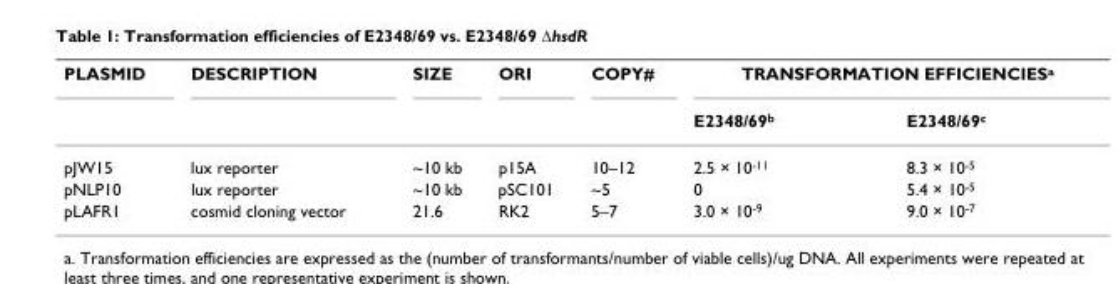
<table><thead><tr><td rowspan="2">PLASMID</td><td rowspan="2">DESCRIPTION</td><td rowspan="2">SIZE</td><td rowspan="2">ORI</td><td rowspan="2">COPY#</td><td colspan="2">TRANSFORMATION EFFICIENCIES<sup>a</sup></td></tr><tr><td>E2348/69<sup>b</sup></td><td>E2348/69<sup>c</sup></td></tr></thead><tbody><tr><td>pJW15</td><td>lux reporter</td><td>~10 kb</td><td>p15A</td><td>10–12</td><td>2.5 × 10<sup>-11</sup></td><td>8.3 × 10<sup>-5</sup></td></tr><tr><td>pNLP10</td><td>lux reporter</td><td>~10 kb</td><td>pSC101</td><td>~5</td><td>0</td><td>5.4 × 10<sup>-5</sup></td></tr><tr><td>pLAFR1</td><td>cosmid cloning vector</td><td>21.6</td><td>RK2</td><td>5–7</td><td>3.0 × 10<sup>-9</sup></td><td>9.0 × 10<sup>-7</sup></td></tr></tbody></table>